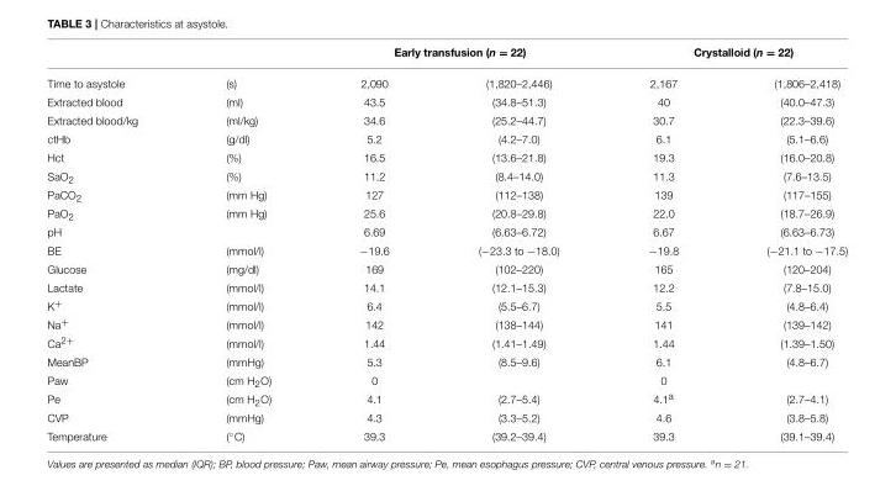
<table><thead><tr><td rowspan="2">Time to asystole</td><td rowspan="2">(s)</td><td colspan="2">Early transfusion (n = 22)</td><td colspan="2">Crystalloid (n = 22)</td></tr><tr><td>2,090</td><td>(1,820–2,446)</td><td>2,167</td><td>(1,806–2,418)</td></tr></thead><tbody><tr><td>Extracted blood</td><td>(ml)</td><td>43.5</td><td>(34.8–51.3)</td><td>40</td><td>(40.0–47.3)</td></tr><tr><td>Extracted blood/kg</td><td>(ml/kg)</td><td>34.6</td><td>(25.2–44.7)</td><td>30.7</td><td>(22.3–39.6)</td></tr><tr><td>ctHb</td><td>(g/dl)</td><td>5.2</td><td>(4.2–7.0)</td><td>6.1</td><td>(5.1–6.6)</td></tr><tr><td>Hct</td><td>(%)</td><td>16.5</td><td>(13.6–21.8)</td><td>19.3</td><td>(16.0–20.8)</td></tr><tr><td>SaO<sub>2</sub></td><td>(%)</td><td>11.2</td><td>(8.4–14.0)</td><td>11.3</td><td>(7.6–13.5)</td></tr><tr><td>PaCO<sub>2</sub></td><td>(mm Hg)</td><td>127</td><td>(112–138)</td><td>139</td><td>(117–155)</td></tr><tr><td>PaO<sub>2</sub></td><td>(mm Hg)</td><td>25.6</td><td>(20.8–29.8)</td><td>22.0</td><td>(18.7–26.9)</td></tr><tr><td>pH</td><td></td><td>6.69</td><td>(6.63–6.72)</td><td>6.67</td><td>(6.63–6.73)</td></tr><tr><td>BE</td><td>(mmol/l)</td><td>−19.6</td><td>(−23.3 to −18.0)</td><td>−19.8</td><td>(−21.1 to −17.5)</td></tr><tr><td>Glucose</td><td>(mg/dl)</td><td>169</td><td>(102–220)</td><td>165</td><td>(120–204)</td></tr><tr><td>Lactate</td><td>(mmol/l)</td><td>14.1</td><td>(12.1–15.3)</td><td>12.2</td><td>(7.8–15.0)</td></tr><tr><td>K<sup>+</sup></td><td>(mmol/l)</td><td>6.4</td><td>(5.5–6.7)</td><td>5.5</td><td>(4.8–6.4)</td></tr><tr><td>Na<sup>+</sup></td><td>(mmol/l)</td><td>142</td><td>(138–144)</td><td>141</td><td>(139–142)</td></tr><tr><td>Ca<sup>2+</sup></td><td>(mmol/l)</td><td>1.44</td><td>(1.41–1.49)</td><td>1.44</td><td>(1.39–1.50)</td></tr><tr><td>MeanBP</td><td>(mmHg)</td><td>5.3</td><td>(8.5–9.6)</td><td>6.1</td><td>(4.8–6.7)</td></tr><tr><td>Paw</td><td>(cm H<sub>2</sub>O)</td><td>0</td><td></td><td>0</td><td></td></tr><tr><td>Pe</td><td>(cm H<sub>2</sub>O)</td><td>4.1</td><td>(2.7–5.4)</td><td>4.1<sup>a</sup></td><td>(2.7–4.1)</td></tr><tr><td>CVP</td><td>(mmHg)</td><td>4.3</td><td>(3.3–5.2)</td><td>4.6</td><td>(3.8–5.8)</td></tr><tr><td>Temperature</td><td>(◦C)</td><td>39.3</td><td>(39.2–39.4)</td><td>39.3</td><td>(39.1–39.4)</td></tr></tbody></table>